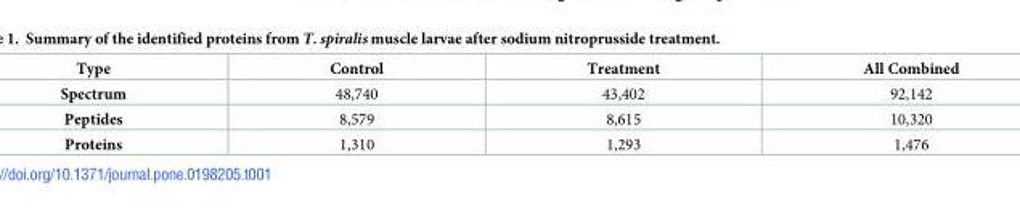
<table><thead><tr><td>Type</td><td>Control</td><td>Treatment</td><td>All Combined</td></tr></thead><tbody><tr><td>Spectrum</td><td>48,740</td><td>43,402</td><td>92,142</td></tr><tr><td>Peptides</td><td>8,579</td><td>8,615</td><td>10,320</td></tr><tr><td>Proteins</td><td>1,310</td><td>1,293</td><td>1,476</td></tr></tbody></table>